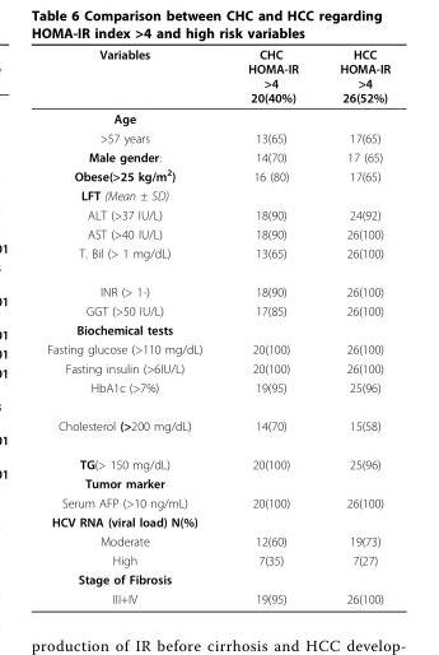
<table><thead><tr><td>Variables</td><td>CHC HOMA-IR &gt;4 20(40%)</td><td>HCC HOMA-IR &gt;4 26(52%)</td></tr></thead><tbody><tr><td colspan="3">Age</td></tr><tr><td>&gt;57 years</td><td>13(65)</td><td>17(65)</td></tr><tr><td>Male gender:</td><td>14(70)</td><td>17 (65)</td></tr><tr><td>Obese(&gt;25 kg/m<sup>2</sup>)</td><td>16 (80)</td><td>17(65)</td></tr><tr><td colspan="3">LFT (Mean ± SD)</td></tr><tr><td>ALT (&gt;37 IU/L)</td><td>18(90)</td><td>24(92)</td></tr><tr><td>AST (&gt;40 IU/L)</td><td>18(90)</td><td>26(100)</td></tr><tr><td>T. Bil (&gt; 1 mg/dL)</td><td>13(65)</td><td>26(100)</td></tr><tr><td>INR (&gt; 1-)</td><td>18(90)</td><td>26(100)</td></tr><tr><td>GGT (&gt;50 IU/L)</td><td>17(85)</td><td>26(100)</td></tr><tr><td colspan="3">Biochemical tests</td></tr><tr><td>Fasting glucose (&gt;110 mg/dL)</td><td>20(100)</td><td>26(100)</td></tr><tr><td>Fasting insulin (&gt;6IU/L)</td><td>20(100)</td><td>26(100)</td></tr><tr><td>HbA1c (&gt;7%)</td><td>19(95)</td><td>25(96)</td></tr><tr><td>Cholesterol (&gt;200 mg/dL)</td><td>14(70)</td><td>15(58)</td></tr><tr><td>TG(&gt; 150 mg/dL)</td><td>20(100)</td><td>25(96)</td></tr><tr><td colspan="3">Tumor marker</td></tr><tr><td>Serum AFP (&gt;10 ng/mL)</td><td>20(100)</td><td>26(100)</td></tr><tr><td colspan="3">HCV RNA (viral load) N(%)</td></tr><tr><td>Moderate</td><td>12(60)</td><td>19(73)</td></tr><tr><td>High</td><td>7(35)</td><td>7(27)</td></tr><tr><td colspan="3">Stage of Fibrosis</td></tr><tr><td>III+IV</td><td>19(95)</td><td>26(100)</td></tr></tbody></table>